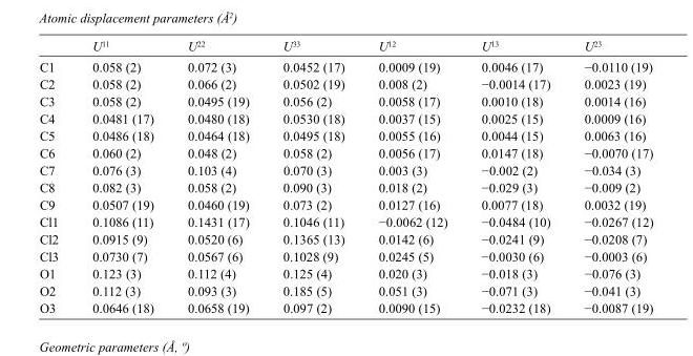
<table><thead><tr><td></td><td>U<sup>11</sup></td><td>U<sup>22</sup></td><td>U<sup>33</sup></td><td>U<sup>12</sup></td><td>U<sup>13</sup></td><td>U<sup>23</sup></td></tr></thead><tbody><tr><td>C1</td><td>0.058 (2)</td><td>0.072 (3)</td><td>0.0452 (17)</td><td>0.0009 (19)</td><td>0.0046 (17)</td><td>−0.0110 (19)</td></tr><tr><td>C2</td><td>0.058 (2)</td><td>0.066 (2)</td><td>0.0502 (19)</td><td>0.008 (2)</td><td>−0.0014 (17)</td><td>0.0023 (19)</td></tr><tr><td>C3</td><td>0.058 (2)</td><td>0.0495 (19)</td><td>0.056 (2)</td><td>0.0058 (17)</td><td>0.0010 (18)</td><td>0.0014 (16)</td></tr><tr><td>C4</td><td>0.0481 (17)</td><td>0.0480 (18)</td><td>0.0530 (18)</td><td>0.0037 (15)</td><td>0.0025 (15)</td><td>0.0009 (16)</td></tr><tr><td>C5</td><td>0.0486 (18)</td><td>0.0464 (18)</td><td>0.0495 (18)</td><td>0.0055 (16)</td><td>0.0044 (15)</td><td>0.0063 (16)</td></tr><tr><td>C6</td><td>0.060 (2)</td><td>0.048 (2)</td><td>0.058 (2)</td><td>0.0056 (17)</td><td>0.0147 (18)</td><td>−0.0070 (17)</td></tr><tr><td>C7</td><td>0.076 (3)</td><td>0.103 (4)</td><td>0.070 (3)</td><td>0.003 (3)</td><td>−0.002 (2)</td><td>−0.034 (3)</td></tr><tr><td>C8</td><td>0.082 (3)</td><td>0.058 (2)</td><td>0.090 (3)</td><td>0.018 (2)</td><td>−0.029 (3)</td><td>−0.009 (2)</td></tr><tr><td>C9</td><td>0.0507 (19)</td><td>0.0460 (19)</td><td>0.073 (2)</td><td>0.0127 (16)</td><td>0.0077 (18)</td><td>0.0032 (19)</td></tr><tr><td>Cl1</td><td>0.1086 (11)</td><td>0.1431 (17)</td><td>0.1046 (11)</td><td>−0.0062 (12)</td><td>−0.0484 (10)</td><td>−0.0267 (12)</td></tr><tr><td>Cl2</td><td>0.0915 (9)</td><td>0.0520 (6)</td><td>0.1365 (13)</td><td>0.0142 (6)</td><td>−0.0241 (9)</td><td>−0.0208 (7)</td></tr><tr><td>Cl3</td><td>0.0730 (7)</td><td>0.0567 (6)</td><td>0.1028 (9)</td><td>0.0245 (5)</td><td>−0.0030 (6)</td><td>−0.0003 (6)</td></tr><tr><td>O1</td><td>0.123 (3)</td><td>0.112 (4)</td><td>0.125 (4)</td><td>0.020 (3)</td><td>−0.018 (3)</td><td>−0.076 (3)</td></tr><tr><td>O2</td><td>0.112 (3)</td><td>0.093 (3)</td><td>0.185 (5)</td><td>0.051 (3)</td><td>−0.071 (3)</td><td>−0.041 (3)</td></tr><tr><td>O3</td><td>0.0646 (18)</td><td>0.0658 (19)</td><td>0.097 (2)</td><td>0.0090 (15)</td><td>−0.0232 (18)</td><td>−0.0087 (19)</td></tr></tbody></table>